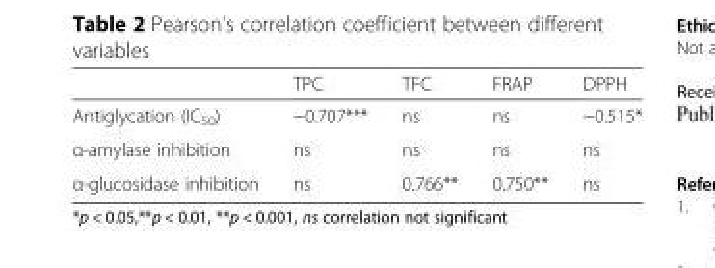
<table><thead><tr><td></td><td>TPC</td><td>TFC</td><td>FRAP</td><td>DPPH</td></tr></thead><tbody><tr><td>Antiglycation (IC<sub>50</sub>)</td><td>−0.707***</td><td>ns</td><td>ns</td><td>−0.515*</td></tr><tr><td>α-amylase inhibition</td><td>ns</td><td>ns</td><td>ns</td><td>ns</td></tr><tr><td>α-glucosidase inhibition</td><td>ns</td><td>0.766**</td><td>0.750**</td><td>ns</td></tr></tbody></table>